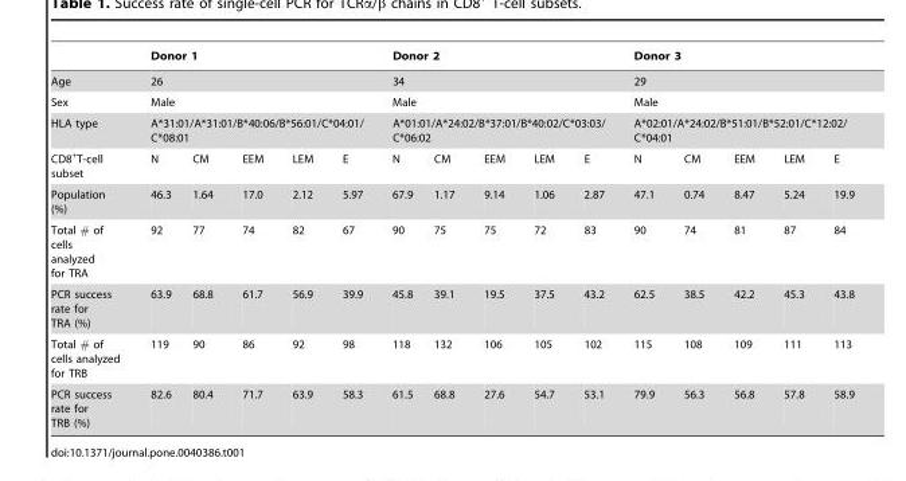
<table><thead><tr><td></td><td colspan="5">Donor 1</td><td colspan="5">Donor 2</td><td colspan="5">Donor 3</td></tr></thead><tbody><tr><td>Age</td><td colspan="5">26</td><td colspan="5">34</td><td colspan="5">29</td></tr><tr><td>Sex</td><td colspan="5">Male</td><td colspan="5">Male</td><td colspan="5">Male</td></tr><tr><td>HLA type</td><td colspan="5">A*31:01/A*31:01/B*40:06/B*56:01/C*04:01/ C*08:01</td><td colspan="5">A*01:01/A*24:02/B*37:01/B*40:02/C*03:03/ C*06:02</td><td colspan="5">A*02:01/A*24:02/B*51:01/B*52:01/C*12:02/ C*04:01</td></tr><tr><td>CD8<sup>+</sup>T-cell subset</td><td>N</td><td>CM</td><td>EEM</td><td>LEM</td><td>E</td><td>N</td><td>CM</td><td>EEM</td><td>LEM</td><td>E</td><td>N</td><td>CM</td><td>EEM</td><td>LEM</td><td>E</td></tr><tr><td>Population (%)</td><td>46.3</td><td>1.64</td><td>17.0</td><td>2.12</td><td>5.97</td><td>67.9</td><td>1.17</td><td>9.14</td><td>1.06</td><td>2.87</td><td>47.1</td><td>0.74</td><td>8.47</td><td>5.24</td><td>19.9</td></tr><tr><td>Total # of cells analyzed for TRA</td><td>92</td><td>77</td><td>74</td><td>82</td><td>67</td><td>90</td><td>75</td><td>75</td><td>72</td><td>83</td><td>90</td><td>74</td><td>81</td><td>87</td><td>84</td></tr><tr><td>PCR success rate for TRA (%)</td><td>63.9</td><td>68.8</td><td>61.7</td><td>56.9</td><td>39.9</td><td>45.8</td><td>39.1</td><td>19.5</td><td>37.5</td><td>43.2</td><td>62.5</td><td>38.5</td><td>42.2</td><td>45.3</td><td>43.8</td></tr><tr><td>Total # of cells analyzed for TRB</td><td>119</td><td>90</td><td>86</td><td>92</td><td>98</td><td>118</td><td>132</td><td>106</td><td>105</td><td>102</td><td>115</td><td>108</td><td>109</td><td>111</td><td>113</td></tr><tr><td>PCR success rate for TRB (%)</td><td>82.6</td><td>80.4</td><td>71.7</td><td>63.9</td><td>58.3</td><td>61.5</td><td>68.8</td><td>27.6</td><td>54.7</td><td>53.1</td><td>79.9</td><td>56.3</td><td>56.8</td><td>57.8</td><td>58.9</td></tr></tbody></table>